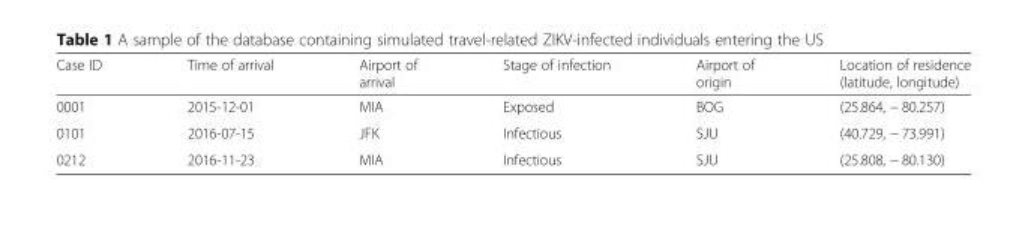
<table><thead><tr><td>Case ID</td><td>Time of arrival</td><td>Airport of arrival</td><td>Stage of infection</td><td>Airport of origin</td><td>Location of residence (latitude, longitude)</td></tr></thead><tbody><tr><td>0001</td><td>2015-12-01</td><td>MIA</td><td>Exposed</td><td>BOG</td><td>(25.864, − 80.257)</td></tr><tr><td>0101</td><td>2016-07-15</td><td>JFK</td><td>Infectious</td><td>SJU</td><td>(40.729, − 73.991)</td></tr><tr><td>0212</td><td>2016-11-23</td><td>MIA</td><td>Infectious</td><td>SJU</td><td>(25.808, − 80.130)</td></tr></tbody></table>